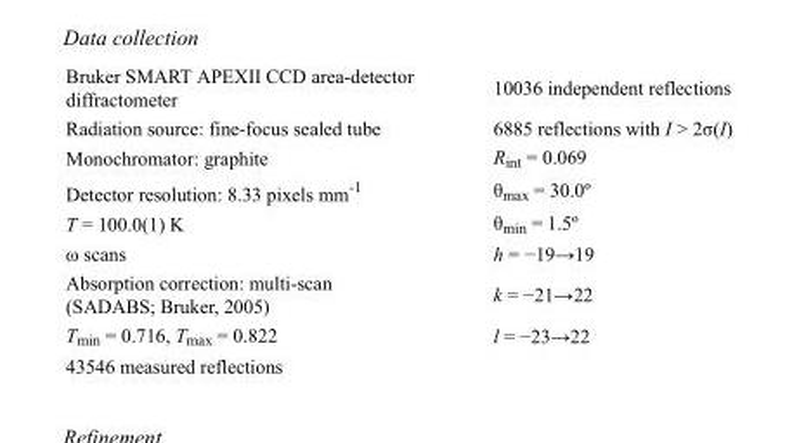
<table><tbody><tr><td>Bruker SMART APEXII CCD area-detector diffractometer</td><td>10036 independent reflections</td></tr><tr><td>Radiation source: fine-focus sealed tube</td><td>6885 reflections with I &gt; 2σ(I)</td></tr><tr><td>Monochromator: graphite</td><td>R<sub>int</sub> = 0.069</td></tr><tr><td>Detector resolution: 8.33 pixels mm<sup>-1</sup></td><td>θ<sub>max</sub> = 30.0º</td></tr><tr><td>T = 100.0(1) K</td><td>θ<sub>min</sub> = 1.5º</td></tr><tr><td>ω scans</td><td>h = −19→19</td></tr><tr><td>Absorption correction: multi-scan (SADABS; Bruker, 2005)</td><td>k = −21→22</td></tr><tr><td>T<sub>min</sub> = 0.716, T<sub>max</sub> = 0.822</td><td>l = −23→22</td></tr><tr><td>43546 measured reflections</td><td></td></tr></tbody></table>